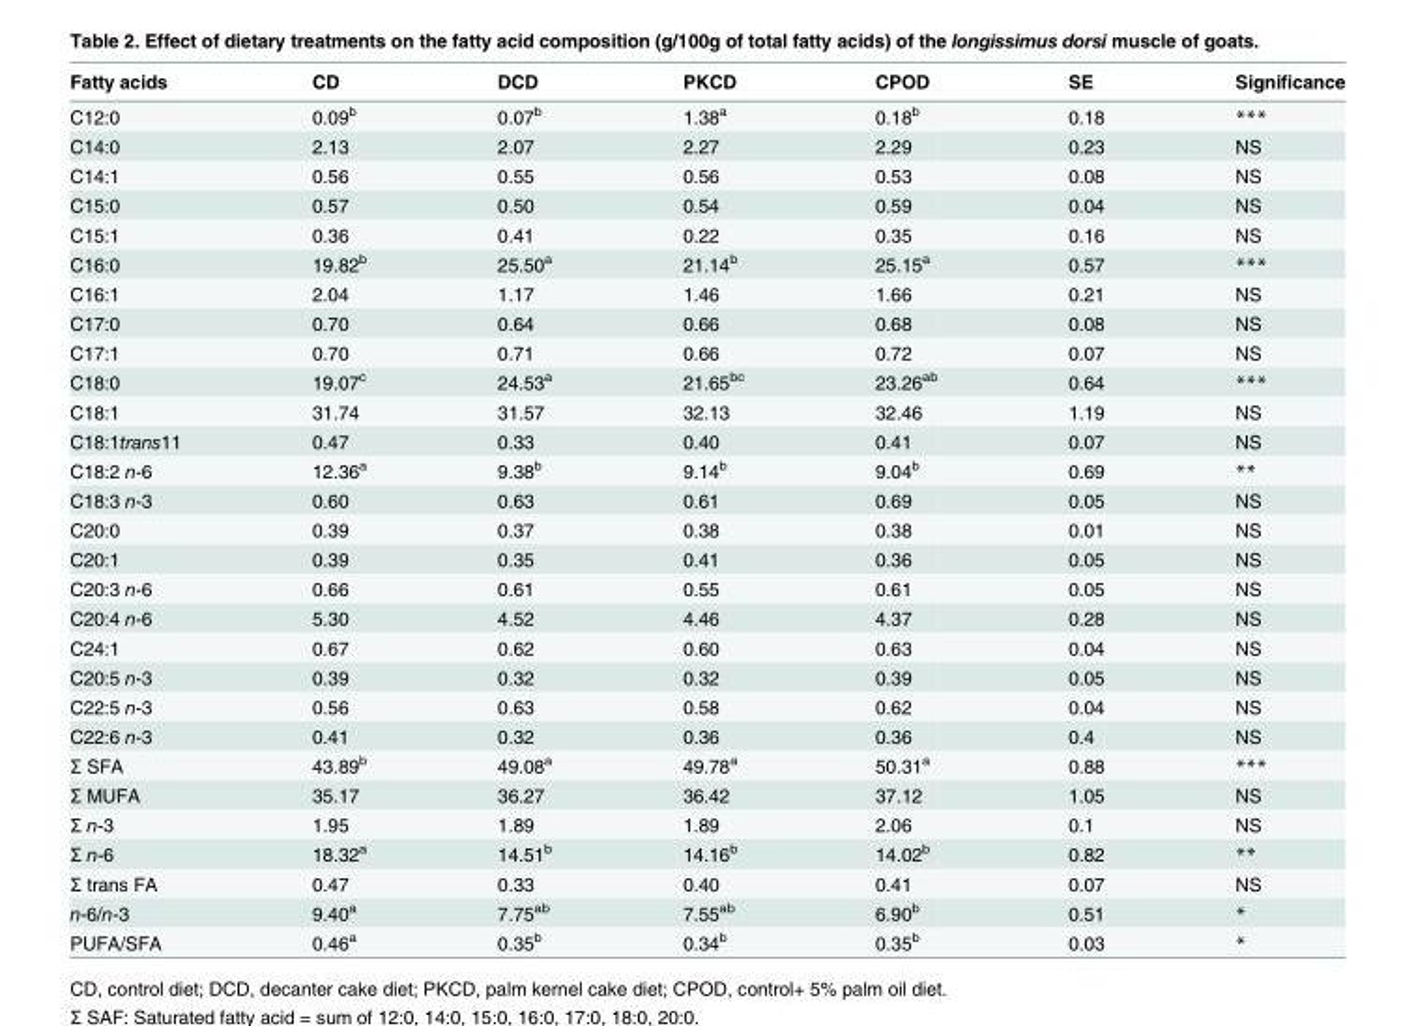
<table><thead><tr><td>Fatty acids</td><td>CD</td><td>DCD</td><td>PKCD</td><td>CPOD</td><td>SE</td><td>Significance</td></tr></thead><tbody><tr><td>C12:0</td><td>0.09<sup>b</sup></td><td>0.07<sup>b</sup></td><td>1.38<sup>a</sup></td><td>0.18<sup>b</sup></td><td>0.18</td><td>***</td></tr><tr><td>C14:0</td><td>2.13</td><td>2.07</td><td>2.27</td><td>2.29</td><td>0.23</td><td>NS</td></tr><tr><td>C14:1</td><td>0.56</td><td>0.55</td><td>0.56</td><td>0.53</td><td>0.08</td><td>NS</td></tr><tr><td>C15:0</td><td>0.57</td><td>0.50</td><td>0.54</td><td>0.59</td><td>0.04</td><td>NS</td></tr><tr><td>C15:1</td><td>0.36</td><td>0.41</td><td>0.22</td><td>0.35</td><td>0.16</td><td>NS</td></tr><tr><td>C16:0</td><td>19.82<sup>b</sup></td><td>25.50<sup>a</sup></td><td>21.14<sup>b</sup></td><td>25.15<sup>a</sup></td><td>0.57</td><td>***</td></tr><tr><td>C16:1</td><td>2.04</td><td>1.17</td><td>1.46</td><td>1.66</td><td>0.21</td><td>NS</td></tr><tr><td>C17:0</td><td>0.70</td><td>0.64</td><td>0.66</td><td>0.68</td><td>0.08</td><td>NS</td></tr><tr><td>C17:1</td><td>0.70</td><td>0.71</td><td>0.66</td><td>0.72</td><td>0.07</td><td>NS</td></tr><tr><td>C18:0</td><td>19.07<sup>c</sup></td><td>24.53<sup>a</sup></td><td>21.65<sup>bc</sup></td><td>23.26<sup>ab</sup></td><td>0.64</td><td>***</td></tr><tr><td>C18:1</td><td>31.74</td><td>31.57</td><td>32.13</td><td>32.46</td><td>1.19</td><td>NS</td></tr><tr><td>C18:1trans11</td><td>0.47</td><td>0.33</td><td>0.40</td><td>0.41</td><td>0.07</td><td>NS</td></tr><tr><td>C18:2 n-6</td><td>12.36<sup>a</sup></td><td>9.38<sup>b</sup></td><td>9.14<sup>b</sup></td><td>9.04<sup>b</sup></td><td>0.69</td><td>**</td></tr><tr><td>C18:3 n-3</td><td>0.60</td><td>0.63</td><td>0.61</td><td>0.69</td><td>0.05</td><td>NS</td></tr><tr><td>C20:0</td><td>0.39</td><td>0.37</td><td>0.38</td><td>0.38</td><td>0.01</td><td>NS</td></tr><tr><td>C20:1</td><td>0.39</td><td>0.35</td><td>0.41</td><td>0.36</td><td>0.05</td><td>NS</td></tr><tr><td>C20:3 n-6</td><td>0.66</td><td>0.61</td><td>0.55</td><td>0.61</td><td>0.05</td><td>NS</td></tr><tr><td>C20:4 n-6</td><td>5.30</td><td>4.52</td><td>4.46</td><td>4.37</td><td>0.28</td><td>NS</td></tr><tr><td>C24:1</td><td>0.67</td><td>0.62</td><td>0.60</td><td>0.63</td><td>0.04</td><td>NS</td></tr><tr><td>C20:5 n-3</td><td>0.39</td><td>0.32</td><td>0.32</td><td>0.39</td><td>0.05</td><td>NS</td></tr><tr><td>C22:5 n-3</td><td>0.56</td><td>0.63</td><td>0.58</td><td>0.62</td><td>0.04</td><td>NS</td></tr><tr><td>C22:6 n-3</td><td>0.41</td><td>0.32</td><td>0.36</td><td>0.36</td><td>0.4</td><td>NS</td></tr><tr><td>Σ SFA</td><td>43.89<sup>b</sup></td><td>49.08<sup>a</sup></td><td>49.78<sup>a</sup></td><td>50.31<sup>a</sup></td><td>0.88</td><td>***</td></tr><tr><td>Σ MUFA</td><td>35.17</td><td>36.27</td><td>36.42</td><td>37.12</td><td>1.05</td><td>NS</td></tr><tr><td>Σ n-3</td><td>1.95</td><td>1.89</td><td>1.89</td><td>2.06</td><td>0.1</td><td>NS</td></tr><tr><td>Σ n-6</td><td>18.32<sup>a</sup></td><td>14.51<sup>b</sup></td><td>14.16<sup>b</sup></td><td>14.02<sup>b</sup></td><td>0.82</td><td>**</td></tr><tr><td>Σ trans FA</td><td>0.47</td><td>0.33</td><td>0.40</td><td>0.41</td><td>0.07</td><td>NS</td></tr><tr><td>n-6/n-3</td><td>9.40<sup>a</sup></td><td>7.75<sup>ab</sup></td><td>7.55<sup>ab</sup></td><td>6.90<sup>b</sup></td><td>0.51</td><td>*</td></tr><tr><td>PUFA/SFA</td><td>0.46<sup>a</sup></td><td>0.35<sup>b</sup></td><td>0.34<sup>b</sup></td><td>0.35<sup>b</sup></td><td>0.03</td><td>*</td></tr></tbody></table>